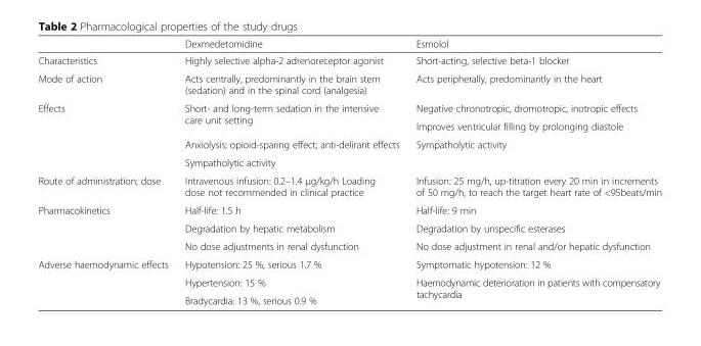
<table><thead><tr><td></td><td>Dexmedetomidine</td><td>Esmolol</td></tr></thead><tbody><tr><td>Characteristics</td><td>Highly selective alpha-2 adrenoreceptor agonist</td><td>Short-acting, selective beta-1 blocker</td></tr><tr><td>Mode of action</td><td>Acts centrally, predominantly in the brain stem (sedation) and in the spinal cord (analgesia)</td><td>Acts peripherally, predominantly in the heart</td></tr><tr><td rowspan="4">Effects</td><td rowspan="2">Short- and long-term sedation in the intensive care unit setting</td><td>Negative chronotropic, dromotropic, inotropic effects</td></tr><tr><td>Improves ventricular filling by prolonging diastole</td></tr><tr><td>Anxiolysis; opioid-sparing effect; anti-delirant effects</td><td rowspan="2">Sympatholytic activity</td></tr><tr><td>Sympatholytic activity</td></tr><tr><td>Route of administration; dose</td><td>Intravenous infusion: 0.2–1.4 μg/kg/h Loading dose not recommended in clinical practice</td><td>Infusion: 25 mg/h, up-titration every 20 min in increments of 50 mg/h, to reach the target heart rate of &lt;95beats/min</td></tr><tr><td rowspan="3">Pharmacokinetics</td><td>Half-life: 1.5 h</td><td>Half-life: 9 min</td></tr><tr><td>Degradation by hepatic metabolism</td><td>Degradation by unspecific esterases</td></tr><tr><td>No dose adjustments in renal dysfunction</td><td>No dose adjustment in renal and/or hepatic dysfunction</td></tr><tr><td rowspan="3">Adverse haemodynamic effects</td><td>Hypotension: 25 %, serious 1.7 %</td><td>Symptomatic hypotension: 12 %</td></tr><tr><td>Hypertension: 15 %</td><td rowspan="2">Haemodynamic deterioration in patients with compensatory tachycardia</td></tr><tr><td>Bradycardia: 13 %, serious 0.9 %</td></tr></tbody></table>